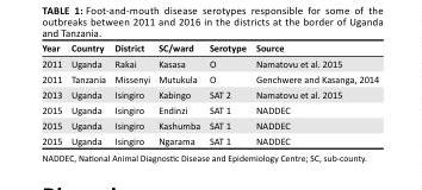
<table><thead><tr><td>Year</td><td>Country</td><td>District</td><td>SC/ward</td><td>Serotype</td><td>Source</td></tr></thead><tbody><tr><td>2011</td><td>Uganda</td><td>Rakai</td><td>Kasasa</td><td>O</td><td>Namatovu et al. 2015</td></tr><tr><td>2011</td><td>Tanzania</td><td>Missenyi</td><td>Mutukula</td><td>O</td><td>Genchwere and Kasanga, 2014</td></tr><tr><td>2013</td><td>Uganda</td><td>Isingiro</td><td>Kabingo</td><td>SAT 2</td><td>Namatovu et al. 2015</td></tr><tr><td>2015</td><td>Uganda</td><td>Isingiro</td><td>Endinzi</td><td>SAT 1</td><td>NADDEC</td></tr><tr><td>2015</td><td>Uganda</td><td>Isingiro</td><td>Kashumba</td><td>SAT 1</td><td>NADDEC</td></tr><tr><td>2015</td><td>Uganda</td><td>Isingiro</td><td>Ngarama</td><td>SAT 1</td><td>NADDEC</td></tr></tbody></table>